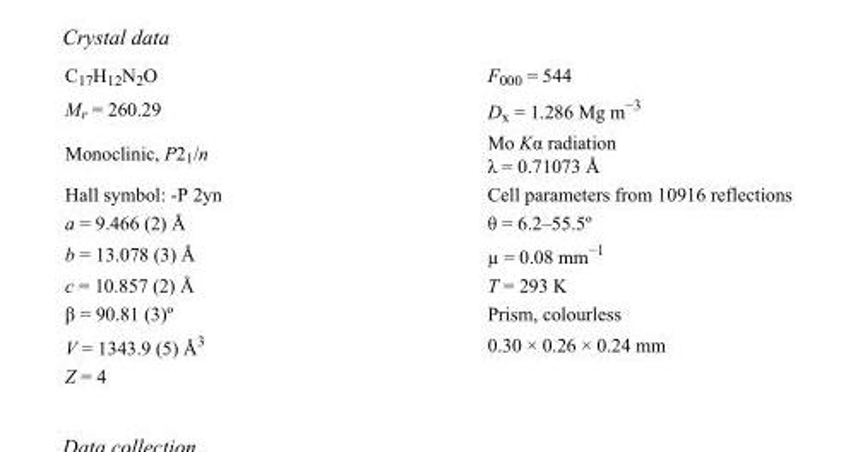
<table><tbody><tr><td>C<sub>17</sub>H<sub>12</sub>N<sub>2</sub>O</td><td>F000 = 544</td></tr><tr><td>M<sub>r</sub> = 260.29</td><td>D<sub>x</sub> = 1.286 Mg m<sup>−3</sup></td></tr><tr><td>Monoclinic, P2<sub>1</sub>/n</td><td>Mo Kα radiation λ = 0.71073 Å</td></tr><tr><td>Hall symbol: -P 2yn</td><td>Cell parameters from 10916 reflections</td></tr><tr><td>a = 9.466 (2) Å</td><td>θ = 6.2–55.5º</td></tr><tr><td>b = 13.078 (3) Å</td><td>µ = 0.08 mm<sup>−1</sup></td></tr><tr><td>c = 10.857 (2) Å</td><td>T = 293 K</td></tr><tr><td>β = 90.81 (3)º</td><td>Prism, colourless</td></tr><tr><td>V = 1343.9 (5) Å<sup>3</sup></td><td>0.30 × 0.26 × 0.24 mm</td></tr><tr><td>Z = 4</td><td></td></tr></tbody></table>